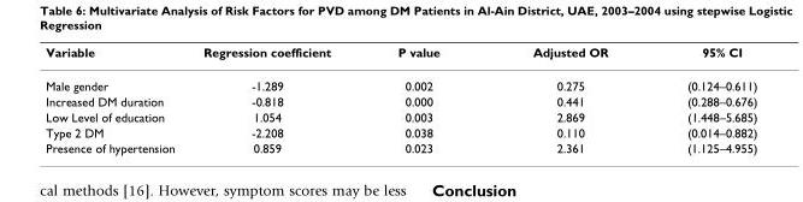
<table><thead><tr><td>Variable</td><td>Regression coefficient</td><td>P value</td><td>Adjusted OR</td><td>95% CI</td></tr></thead><tbody><tr><td>Male gender</td><td>-1.289</td><td>0.002</td><td>0.275</td><td>(0.124–0.611)</td></tr><tr><td>Increased DM duration</td><td>-0.818</td><td>0.000</td><td>0.441</td><td>(0.288–0.676)</td></tr><tr><td>Low Level of education</td><td>1.054</td><td>0.003</td><td>2.869</td><td>(1.448–5.685)</td></tr><tr><td>Type 2 DM</td><td>-2.208</td><td>0.038</td><td>0.110</td><td>(0.014–0.882)</td></tr><tr><td>Presence of hypertension</td><td>0.859</td><td>0.023</td><td>2.361</td><td>(1.125–4.955)</td></tr></tbody></table>